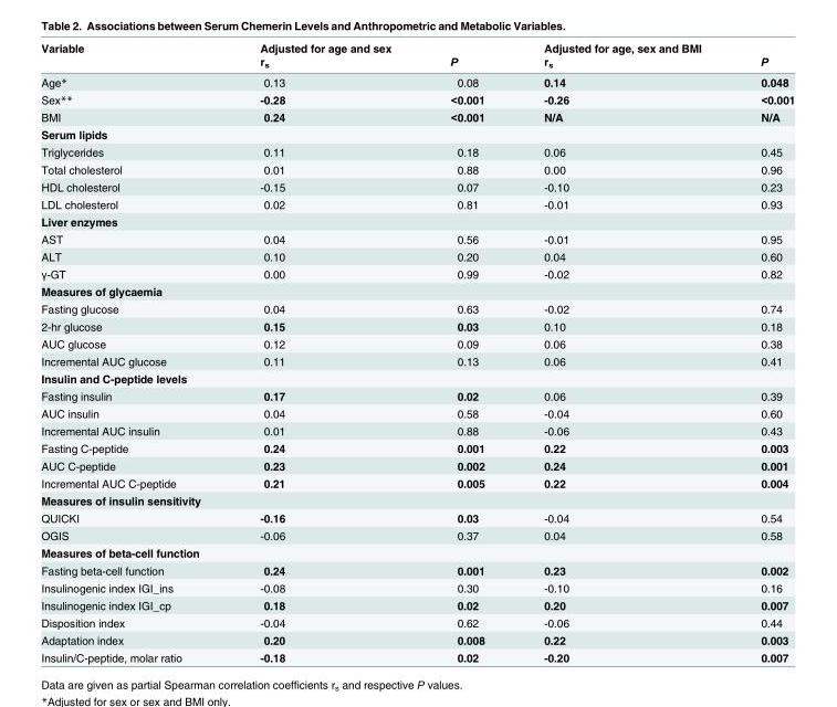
<table><thead><tr><td rowspan="2">Variable</td><td rowspan="2">Adjusted for age and sex r<sub>s</sub></td><td rowspan="2">P</td><td rowspan="2">Adjusted for age, sex and BMI r<sub>s</sub></td><td rowspan="2">P</td></tr><tr></tr></thead><tbody><tr><td>Age*</td><td>0.13</td><td>0.08</td><td>0.14</td><td>0.048</td></tr><tr><td>Sex**</td><td>-0.28</td><td>&lt;0.001</td><td>-0.26</td><td>&lt;0.001</td></tr><tr><td>BMI</td><td>0.24</td><td>&lt;0.001</td><td>N/A</td><td>N/A</td></tr><tr><td colspan="5">Serum lipids</td></tr><tr><td>Triglycerides</td><td>0.11</td><td>0.18</td><td>0.06</td><td>0.45</td></tr><tr><td>Total cholesterol</td><td>0.01</td><td>0.88</td><td>0.00</td><td>0.96</td></tr><tr><td>HDL cholesterol</td><td>-0.15</td><td>0.07</td><td>-0.10</td><td>0.23</td></tr><tr><td>LDL cholesterol</td><td>0.02</td><td>0.81</td><td>-0.01</td><td>0.93</td></tr><tr><td colspan="5">Liver enzymes</td></tr><tr><td>AST</td><td>0.04</td><td>0.56</td><td>-0.01</td><td>0.95</td></tr><tr><td>ALT</td><td>0.10</td><td>0.20</td><td>0.04</td><td>0.60</td></tr><tr><td>γ-GT</td><td>0.00</td><td>0.99</td><td>-0.02</td><td>0.82</td></tr><tr><td colspan="5">Measures of glycaemia</td></tr><tr><td>Fasting glucose</td><td>0.04</td><td>0.63</td><td>-0.02</td><td>0.74</td></tr><tr><td>2-hr glucose</td><td>0.15</td><td>0.03</td><td>0.10</td><td>0.18</td></tr><tr><td>AUC glucose</td><td>0.12</td><td>0.09</td><td>0.06</td><td>0.38</td></tr><tr><td>Incremental AUC glucose</td><td>0.11</td><td>0.13</td><td>0.06</td><td>0.41</td></tr><tr><td colspan="5">Insulin and C-peptide levels</td></tr><tr><td>Fasting insulin</td><td>0.17</td><td>0.02</td><td>0.06</td><td>0.39</td></tr><tr><td>AUC insulin</td><td>0.04</td><td>0.58</td><td>-0.04</td><td>0.60</td></tr><tr><td>Incremental AUC insulin</td><td>0.01</td><td>0.88</td><td>-0.06</td><td>0.43</td></tr><tr><td>Fasting C-peptide</td><td>0.24</td><td>0.001</td><td>0.22</td><td>0.003</td></tr><tr><td>AUC C-peptide</td><td>0.23</td><td>0.002</td><td>0.24</td><td>0.001</td></tr><tr><td>Incremental AUC C-peptide</td><td>0.21</td><td>0.005</td><td>0.22</td><td>0.004</td></tr><tr><td colspan="5">Measures of insulin sensitivity</td></tr><tr><td>QUICKI</td><td>-0.16</td><td>0.03</td><td>-0.04</td><td>0.54</td></tr><tr><td>OGIS</td><td>-0.06</td><td>0.37</td><td>0.04</td><td>0.58</td></tr><tr><td colspan="5">Measures of beta-cell function</td></tr><tr><td>Fasting beta-cell function</td><td>0.24</td><td>0.001</td><td>0.23</td><td>0.002</td></tr><tr><td>Insulinogenic index IGI_ins</td><td>-0.08</td><td>0.30</td><td>-0.10</td><td>0.16</td></tr><tr><td>Insulinogenic index IGI_cp</td><td>0.18</td><td>0.02</td><td>0.20</td><td>0.007</td></tr><tr><td>Disposition index</td><td>-0.04</td><td>0.62</td><td>-0.06</td><td>0.44</td></tr><tr><td>Adaptation index</td><td>0.20</td><td>0.008</td><td>0.22</td><td>0.003</td></tr><tr><td>Insulin/C-peptide, molar ratio</td><td>-0.18</td><td>0.02</td><td>-0.20</td><td>0.007</td></tr></tbody></table>